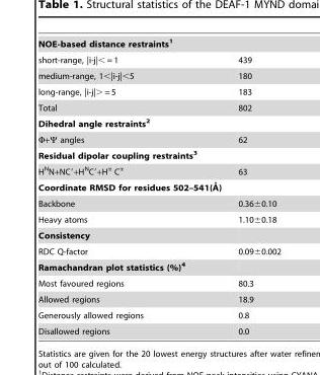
<table><tbody><tr><td colspan="2">NOE-based distance restraints1</td></tr><tr><td>short-range, |i-j|&lt; = 1</td><td>439</td></tr><tr><td>medium-range, 1&lt;|i-j|&lt;5</td><td>180</td></tr><tr><td>long-range, |i-j|&gt; = 5</td><td>183</td></tr><tr><td>Total</td><td>802</td></tr><tr><td colspan="2">Dihedral angle restraints2</td></tr><tr><td>Φ+Ψ angles</td><td>62</td></tr><tr><td colspan="2">Residual dipolar coupling restraints3</td></tr><tr><td>H<sup>N</sup>N+NC′+H<sup>N</sup>C′+H<sup>α</sup> C<sup>α</sup></td><td>63</td></tr><tr><td colspan="2">Coordinate RMSD for residues 502–541(A˚ )</td></tr><tr><td>Backbone</td><td>0.36±0.10</td></tr><tr><td>Heavy atoms</td><td>1.10±0.18</td></tr><tr><td colspan="2">Consistency</td></tr><tr><td>RDC Q-factor</td><td>0.09±0.002</td></tr><tr><td colspan="2">Ramachandran plot statistics (%)4</td></tr><tr><td>Most favoured regions</td><td>80.3</td></tr><tr><td>Allowed regions</td><td>18.9</td></tr><tr><td>Generously allowed regions</td><td>0.8</td></tr><tr><td>Disallowed regions</td><td>0.0</td></tr></tbody></table>